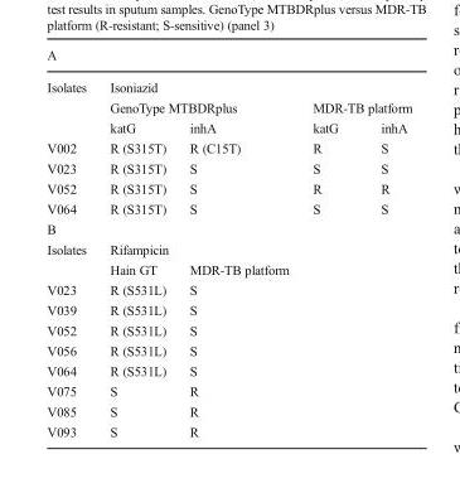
<table><thead><tr><td colspan="5">A</td></tr><tr><td rowspan="3">Isolates</td><td colspan="4">Isoniazid</td></tr><tr><td colspan="2">GenoType MTBDRplus</td><td colspan="2">MDR-TB platform</td></tr><tr><td>katG</td><td>inhA</td><td>katG</td><td>inhA</td></tr></thead><tbody><tr><td>V002</td><td>R (S315T)</td><td>R (C15T)</td><td>R</td><td>S</td></tr><tr><td>V023</td><td>R (S315T)</td><td>S</td><td>S</td><td>S</td></tr><tr><td>V052</td><td>R (S315T)</td><td>S</td><td>R</td><td>R</td></tr><tr><td>V064</td><td>R (S315T)</td><td>S</td><td>S</td><td>S</td></tr><tr><td colspan="5">B</td></tr><tr><td rowspan="2">Isolates</td><td colspan="4">Rifampicin</td></tr><tr><td>Hain GT</td><td>MDR-TB platform</td><td></td><td></td></tr><tr><td>V023</td><td>R (S531L)</td><td>S</td><td></td><td></td></tr><tr><td>V039</td><td>R (S531L)</td><td>S</td><td></td><td></td></tr><tr><td>V052</td><td>R (S531L)</td><td>S</td><td></td><td></td></tr><tr><td>V056</td><td>R (S531L)</td><td>S</td><td></td><td></td></tr><tr><td>V064</td><td>R (S531L)</td><td>S</td><td></td><td></td></tr><tr><td>V075</td><td>S</td><td>R</td><td></td><td></td></tr><tr><td>V085</td><td>S</td><td>R</td><td></td><td></td></tr><tr><td>V093</td><td>S</td><td>R</td><td></td><td></td></tr></tbody></table>